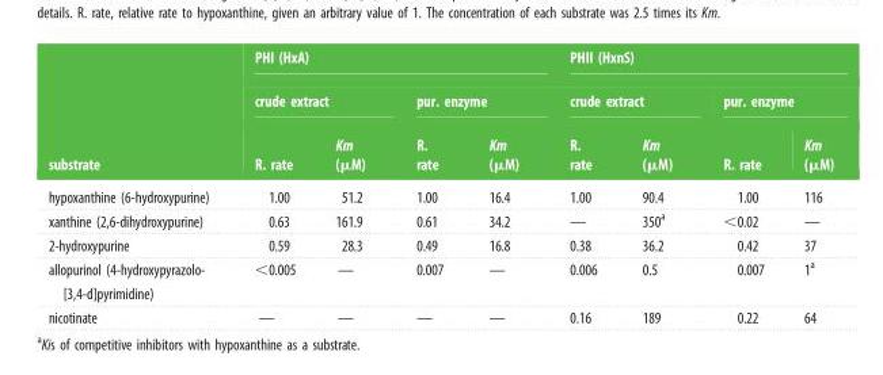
<table><thead><tr><td rowspan="3">substrate</td><td colspan="4">PHI (HxA)</td><td colspan="4">PHII (HxnS)</td></tr><tr><td colspan="2">crude extract</td><td colspan="2">pur. enzyme</td><td colspan="2">crude extract</td><td colspan="2">pur. enzyme</td></tr><tr><td>R. rate</td><td>Km (µM)</td><td>R. rate</td><td>Km (µM)</td><td>R. rate</td><td>Km (µM)</td><td>R. rate</td><td>Km (µM)</td></tr></thead><tbody><tr><td>hypoxanthine (6-hydroxypurine)</td><td>1.00</td><td>51.2</td><td>1.00</td><td>16.4</td><td>1.00</td><td>90.4</td><td>1.00</td><td>116</td></tr><tr><td>xanthine (2,6-dihydroxypurine)</td><td>0.63</td><td>161.9</td><td>0.61</td><td>34.2</td><td>—</td><td>350<sup>a</sup></td><td>&lt;0.02</td><td>—</td></tr><tr><td>2-hydroxypurine</td><td>0.59</td><td>28.3</td><td>0.49</td><td>16.8</td><td>0.38</td><td>36.2</td><td>0.42</td><td>37</td></tr><tr><td>allopurinol (4-hydroxypyrazolo- [3,4-d]pyrimidine)</td><td>&lt;0.005</td><td>—</td><td>0.007</td><td>—</td><td>0.006</td><td>0.5</td><td>0.007</td><td>1<sup>a</sup></td></tr><tr><td>nicotinate</td><td>—</td><td>—</td><td>—</td><td>—</td><td>0.16</td><td>189</td><td>0.22</td><td>64</td></tr></tbody></table>